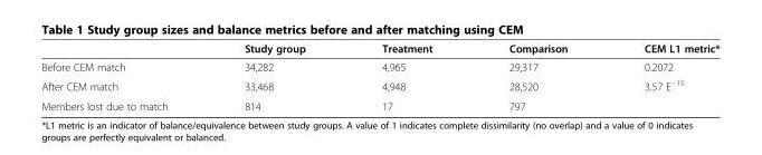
<table><thead><tr><td></td><td>Study group</td><td>Treatment</td><td>Comparison</td><td>CEM L1 metric*</td></tr></thead><tbody><tr><td>Before CEM match</td><td>34,282</td><td>4,965</td><td>29,317</td><td>0.2072</td></tr><tr><td>After CEM match</td><td>33,468</td><td>4,948</td><td>28,520</td><td>3.57 E<sup>−15</sup></td></tr><tr><td>Members lost due to match</td><td>814</td><td>17</td><td>797</td><td></td></tr></tbody></table>